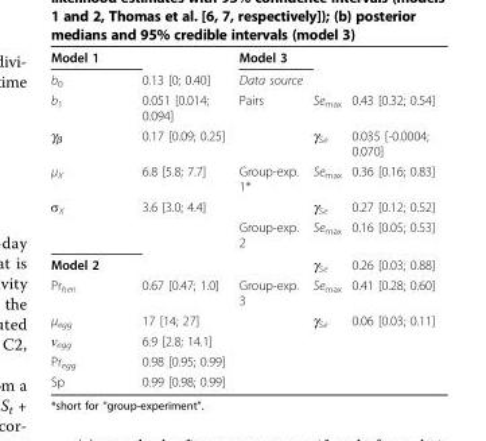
<table><tbody><tr><td>Model 1</td><td></td><td>Model 3</td><td></td><td></td></tr><tr><td>b<sub>0</sub></td><td>0.13 [0; 0.40]</td><td>Data source</td><td></td><td></td></tr><tr><td>b<sub>1</sub></td><td>0.051 [0.014; 0.094]</td><td>Pairs</td><td>Se<sub>max</sub></td><td>0.43 [0.32; 0.54]</td></tr><tr><td>γ<sub>β</sub></td><td>0.17 [0.09; 0.25]</td><td></td><td>γ<sub>Se</sub></td><td>0.035 [-0.0004; 0.070]</td></tr><tr><td>μ<sub>X</sub></td><td>6.8 [5.8; 7.7]</td><td>Group-exp. 1*</td><td>Se<sub>max</sub></td><td>0.36 [0.16; 0.83]</td></tr><tr><td rowspan="2">σ<sub>X</sub></td><td>3.6 [3.0; 4.4]</td><td></td><td>γ<sub>Se</sub></td><td>0.27 [0.12; 0.52]</td></tr><tr><td></td><td>Group-exp. 2</td><td>Se<sub>max</sub></td><td>0.16 [0.05; 0.53]</td></tr><tr><td>Model 2</td><td></td><td></td><td>γ<sub>Se</sub></td><td>0.26 [0.03; 0.88]</td></tr><tr><td>Pr<sub>hen</sub></td><td>0.67 [0.47; 1.0]</td><td>Group-exp. 3</td><td>Se<sub>max</sub></td><td>0.41 [0.28; 0.60]</td></tr><tr><td>μ<sub>egg</sub></td><td>17 [14; 27]</td><td></td><td>γ<sub>Se</sub></td><td>0.06 [0.03; 0.11]</td></tr><tr><td>ν<sub>egg</sub></td><td>6.9 [2.8; 14.1]</td><td></td><td></td><td></td></tr><tr><td>Pr<sub>egg</sub></td><td>0.98 [0.95; 0.99]</td><td></td><td></td><td></td></tr><tr><td>Sp</td><td>0.99 [0.98; 0.99]</td><td></td><td></td><td></td></tr></tbody></table>